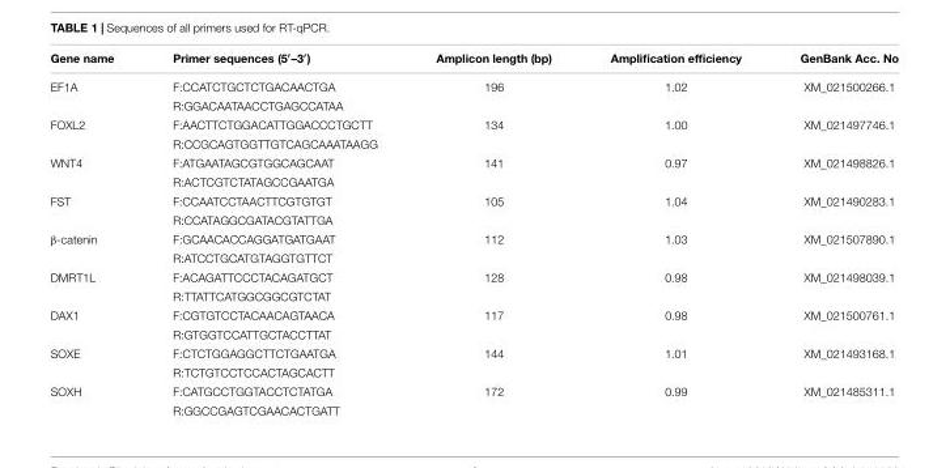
<table><thead><tr><td>Gene name</td><td>Primer sequences (5′–3′)</td><td>Amplicon length (bp)</td><td>Amplification efficiency</td><td>GenBank Acc. No</td></tr></thead><tbody><tr><td rowspan="2">EF1A</td><td>F:CCATCTGCTCTGACAACTGA</td><td>196</td><td>1.02</td><td>XM_021500266.1</td></tr><tr><td>R:GGACAATAACCTGAGCCATAA</td><td></td><td></td><td></td></tr><tr><td rowspan="2">FOXL2</td><td>F:AACTTCTGGACATTGGACCCTGCTT</td><td>134</td><td>1.00</td><td>XM_021497746.1</td></tr><tr><td>R:CCGCAGTGGTTGTCAGCAAATAAGG</td><td></td><td></td><td></td></tr><tr><td rowspan="2">WNT4</td><td>F:ATGAATAGCGTGGCAGCAAT</td><td>141</td><td>0.97</td><td>XM_021498826.1</td></tr><tr><td>R:ACTCGTCTATAGCCGAATGA</td><td></td><td></td><td></td></tr><tr><td rowspan="2">FST</td><td>F:CCAATCCTAACTTCGTGTGT</td><td>105</td><td>1.04</td><td>XM_021490283.1</td></tr><tr><td>R:CCATAGGCGATACGTATTGA</td><td></td><td></td><td></td></tr><tr><td rowspan="2">β-catenin</td><td>F:GCAACACCAGGATGATGAAT</td><td>112</td><td>1.03</td><td>XM_021507890.1</td></tr><tr><td>R:ATCCTGCATGTAGGTGTTCT</td><td></td><td></td><td></td></tr><tr><td rowspan="2">DMRT1L</td><td>F:ACAGATTCCCTACAGATGCT</td><td>128</td><td>0.98</td><td>XM_021498039.1</td></tr><tr><td>R:TTATTCATGGCGGCGTCTAT</td><td></td><td></td><td></td></tr><tr><td rowspan="2">DAX1</td><td>F:CGTGTCCTACAACAGTAACA</td><td>117</td><td>0.98</td><td>XM_021500761.1</td></tr><tr><td>R:GTGGTCCATTGCTACCTTAT</td><td></td><td></td><td></td></tr><tr><td rowspan="2">SOXE</td><td>F:CTCTGGAGGCTTCTGAATGA</td><td>144</td><td>1.01</td><td>XM_021493168.1</td></tr><tr><td>R:TCTGTCCTCCACTAGCACTT</td><td></td><td></td><td></td></tr><tr><td rowspan="2">SOXH</td><td>F:CATGCCTGGTACCTCTATGA</td><td>172</td><td>0.99</td><td>XM_021485311.1</td></tr><tr><td>R:GGCCGAGTCGAACACTGATT</td><td></td><td></td><td></td></tr></tbody></table>